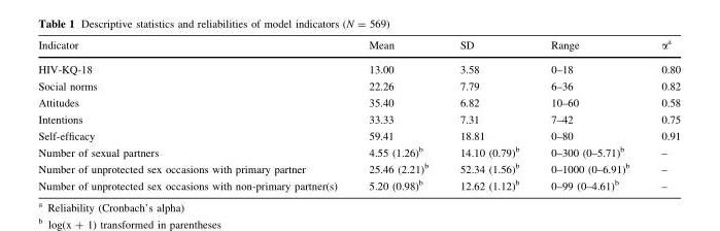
<table><thead><tr><td>Indicator</td><td>Mean</td><td>SD</td><td>Range</td><td>α<sup>a</sup></td></tr></thead><tbody><tr><td>HIV-KQ-18</td><td>13.00</td><td>3.58</td><td>0–18</td><td>0.80</td></tr><tr><td>Social norms</td><td>22.26</td><td>7.79</td><td>6–36</td><td>0.82</td></tr><tr><td>Attitudes</td><td>35.40</td><td>6.82</td><td>10–60</td><td>0.58</td></tr><tr><td>Intentions</td><td>33.33</td><td>7.31</td><td>7–42</td><td>0.75</td></tr><tr><td>Self-efficacy</td><td>59.41</td><td>18.81</td><td>0–80</td><td>0.91</td></tr><tr><td>Number of sexual partners</td><td>4.55 (1.26)<sup>b</sup></td><td>14.10 (0.79)<sup>b</sup></td><td>0–300 (0–5.71)<sup>b</sup></td><td>–</td></tr><tr><td>Number of unprotected sex occasions with primary partner</td><td>25.46 (2.21)<sup>b</sup></td><td>52.34 (1.56)<sup>b</sup></td><td>0–1000 (0–6.91)<sup>b</sup></td><td>–</td></tr><tr><td>Number of unprotected sex occasions with non-primary partner(s)</td><td>5.20 (0.98)<sup>b</sup></td><td>12.62 (1.12)<sup>b</sup></td><td>0–99 (0–4.61)<sup>b</sup></td><td>–</td></tr></tbody></table>